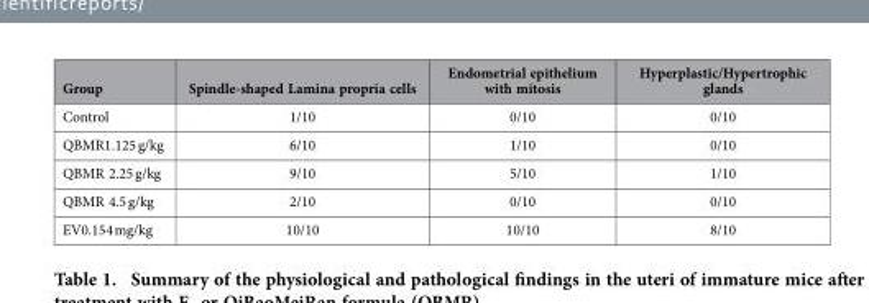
<table><thead><tr><td>Group</td><td>Spindle-shaped Lamina propria cells</td><td>Endometrial epithelium with mitosis</td><td>Hyperplastic/Hypertrophic glands</td></tr></thead><tbody><tr><td>Control</td><td>1/10</td><td>0/10</td><td>0/10</td></tr><tr><td>QBMR1.125 g/kg</td><td>6/10</td><td>1/10</td><td>0/10</td></tr><tr><td>QBMR 2.25 g/kg</td><td>9/10</td><td>5/10</td><td>1/10</td></tr><tr><td>QBMR 4.5 g/kg</td><td>2/10</td><td>0/10</td><td>0/10</td></tr><tr><td>EV0.154 mg/kg</td><td>10/10</td><td>10/10</td><td>8/10</td></tr></tbody></table>